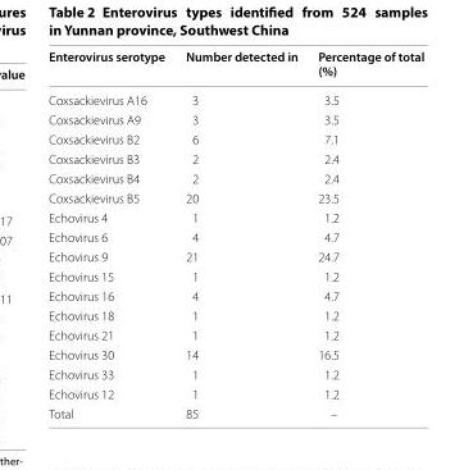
<table><thead><tr><td>Enterovirus serotype</td><td>Number detected in</td><td>Percentage of total (%)</td></tr></thead><tbody><tr><td>Coxsackievirus A16</td><td>3</td><td>3.5</td></tr><tr><td>Coxsackievirus A9</td><td>3</td><td>3.5</td></tr><tr><td>Coxsackievirus B2</td><td>6</td><td>7.1</td></tr><tr><td>Coxsackievirus B3</td><td>2</td><td>2.4</td></tr><tr><td>Coxsackievirus B4</td><td>2</td><td>2.4</td></tr><tr><td>Coxsackievirus B5</td><td>20</td><td>23.5</td></tr><tr><td>Echovirus 4</td><td>1</td><td>1.2</td></tr><tr><td>Echovirus 6</td><td>4</td><td>4.7</td></tr><tr><td>Echovirus 9</td><td>21</td><td>24.7</td></tr><tr><td>Echovirus 15</td><td>1</td><td>1.2</td></tr><tr><td>Echovirus 16</td><td>4</td><td>4.7</td></tr><tr><td>Echovirus 18</td><td>1</td><td>1.2</td></tr><tr><td>Echovirus 21</td><td>1</td><td>1.2</td></tr><tr><td>Echovirus 30</td><td>14</td><td>16.5</td></tr><tr><td>Echovirus 33</td><td>1</td><td>1.2</td></tr><tr><td>Echovirus 12</td><td>1</td><td>1.2</td></tr><tr><td>Total</td><td>85</td><td>–</td></tr></tbody></table>